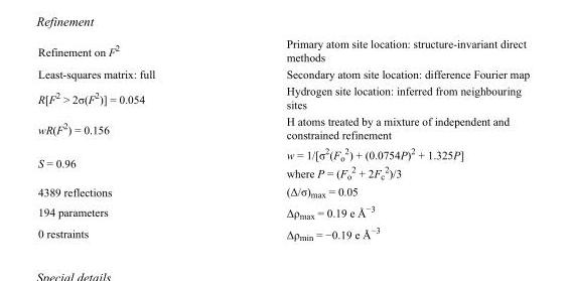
<table><tbody><tr><td>Refinement on F<sup>2</sup></td><td>Primary atom site location: structure-invariant direct methods</td></tr><tr><td>Least-squares matrix: full</td><td>Secondary atom site location: difference Fourier map</td></tr><tr><td>R[F<sup>2</sup> &gt; 2σ(F<sup>2</sup>)] = 0.054</td><td>Hydrogen site location: inferred from neighbouring sites</td></tr><tr><td>wR(F<sup>2</sup>) = 0.156</td><td>H atoms treated by a mixture of independent and constrained refinement</td></tr><tr><td>S = 0.96</td><td>w = 1/[σ<sup>2</sup>(F<sub>o</sub> <sup>2</sup>) + (0.0754P)<sup>2</sup> + 1.325P] where P = (F<sub>o</sub> <sup>2</sup> + 2F<sub>c</sub> <sup>2</sup>)/3</td></tr><tr><td>4389 reflections</td><td>(Δ/σ)<sub>max</sub> = 0.05</td></tr><tr><td>194 parameters</td><td>Δρ<sub>max</sub> = 0.19 e Å<sup>−3</sup></td></tr><tr><td>0 restraints</td><td>Δρ<sub>min</sub> = −0.19 e Å<sup>−3</sup></td></tr></tbody></table>